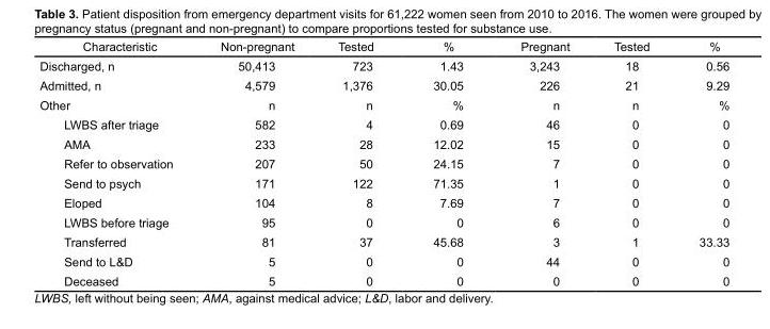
<table><thead><tr><td>Characteristic</td><td>Non-pregnant</td><td>Tested</td><td>%</td><td>Pregnant</td><td>Tested</td><td>%</td></tr></thead><tbody><tr><td>Discharged, n</td><td>50,413</td><td>723</td><td>1.43</td><td>3,243</td><td>18</td><td>0.56</td></tr><tr><td>Admitted, n</td><td>4,579</td><td>1,376</td><td>30.05</td><td>226</td><td>21</td><td>9.29</td></tr><tr><td>Other</td><td>n</td><td>n</td><td>%</td><td>n</td><td>n</td><td>%</td></tr><tr><td>LWBS after triage</td><td>582</td><td>4</td><td>0.69</td><td>46</td><td>0</td><td>0</td></tr><tr><td>AMA</td><td>233</td><td>28</td><td>12.02</td><td>15</td><td>0</td><td>0</td></tr><tr><td>Refer to observation</td><td>207</td><td>50</td><td>24.15</td><td>7</td><td>0</td><td>0</td></tr><tr><td>Send to psych</td><td>171</td><td>122</td><td>71.35</td><td>1</td><td>0</td><td>0</td></tr><tr><td>Eloped</td><td>104</td><td>8</td><td>7.69</td><td>7</td><td>0</td><td>0</td></tr><tr><td>LWBS before triage</td><td>95</td><td>0</td><td>0</td><td>6</td><td>0</td><td>0</td></tr><tr><td>Transferred</td><td>81</td><td>37</td><td>45.68</td><td>3</td><td>1</td><td>33.33</td></tr><tr><td>Send to L&amp;D</td><td>5</td><td>0</td><td>0</td><td>44</td><td>0</td><td>0</td></tr><tr><td>Deceased</td><td>5</td><td>0</td><td>0</td><td>0</td><td>0</td><td>0</td></tr></tbody></table>